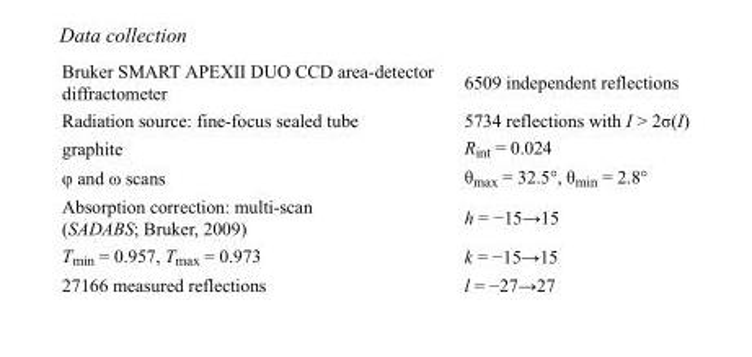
<table><tbody><tr><td>Bruker SMART APEXII DUO CCD area-detector diffractometer</td><td>6509 independent reflections</td></tr><tr><td>Radiation source: fine-focus sealed tube</td><td>5734 reflections with I &gt; 2σ(I)</td></tr><tr><td>graphite</td><td>R<sub>int</sub> = 0.024</td></tr><tr><td>φ and ω scans</td><td>θ<sub>max</sub> = 32.5°, θ<sub>min</sub> = 2.8°</td></tr><tr><td>Absorption correction: multi-scan (SADABS; Bruker, 2009)</td><td>h = −15→15</td></tr><tr><td>T<sub>min</sub> = 0.957, T<sub>max</sub> = 0.973</td><td>k = −15→15</td></tr><tr><td>27166 measured reflections</td><td>l = −27→27</td></tr></tbody></table>